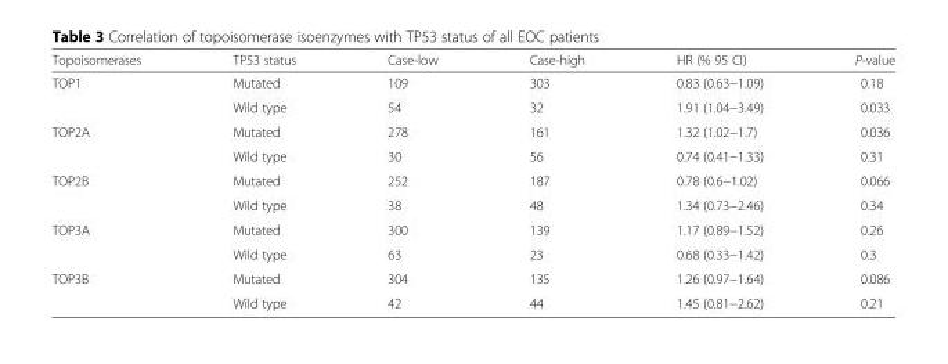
<table><thead><tr><td>Topoisomerases</td><td>TP53 status</td><td>Case-low</td><td>Case-high</td><td>HR (% 95 CI)</td><td>P-value</td></tr></thead><tbody><tr><td rowspan="2">TOP1</td><td>Mutated</td><td>109</td><td>303</td><td>0.83 (0.63−1.09)</td><td>0.18</td></tr><tr><td>Wild type</td><td>54</td><td>32</td><td>1.91 (1.04−3.49)</td><td>0.033</td></tr><tr><td rowspan="2">TOP2A</td><td>Mutated</td><td>278</td><td>161</td><td>1.32 (1.02−1.7)</td><td>0.036</td></tr><tr><td>Wild type</td><td>30</td><td>56</td><td>0.74 (0.41−1.33)</td><td>0.31</td></tr><tr><td rowspan="2">TOP2B</td><td>Mutated</td><td>252</td><td>187</td><td>0.78 (0.6−1.02)</td><td>0.066</td></tr><tr><td>Wild type</td><td>38</td><td>48</td><td>1.34 (0.73−2.46)</td><td>0.34</td></tr><tr><td rowspan="2">TOP3A</td><td>Mutated</td><td>300</td><td>139</td><td>1.17 (0.89−1.52)</td><td>0.26</td></tr><tr><td>Wild type</td><td>63</td><td>23</td><td>0.68 (0.33−1.42)</td><td>0.3</td></tr><tr><td rowspan="2">TOP3B</td><td>Mutated</td><td>304</td><td>135</td><td>1.26 (0.97−1.64)</td><td>0.086</td></tr><tr><td>Wild type</td><td>42</td><td>44</td><td>1.45 (0.81−2.62)</td><td>0.21</td></tr></tbody></table>